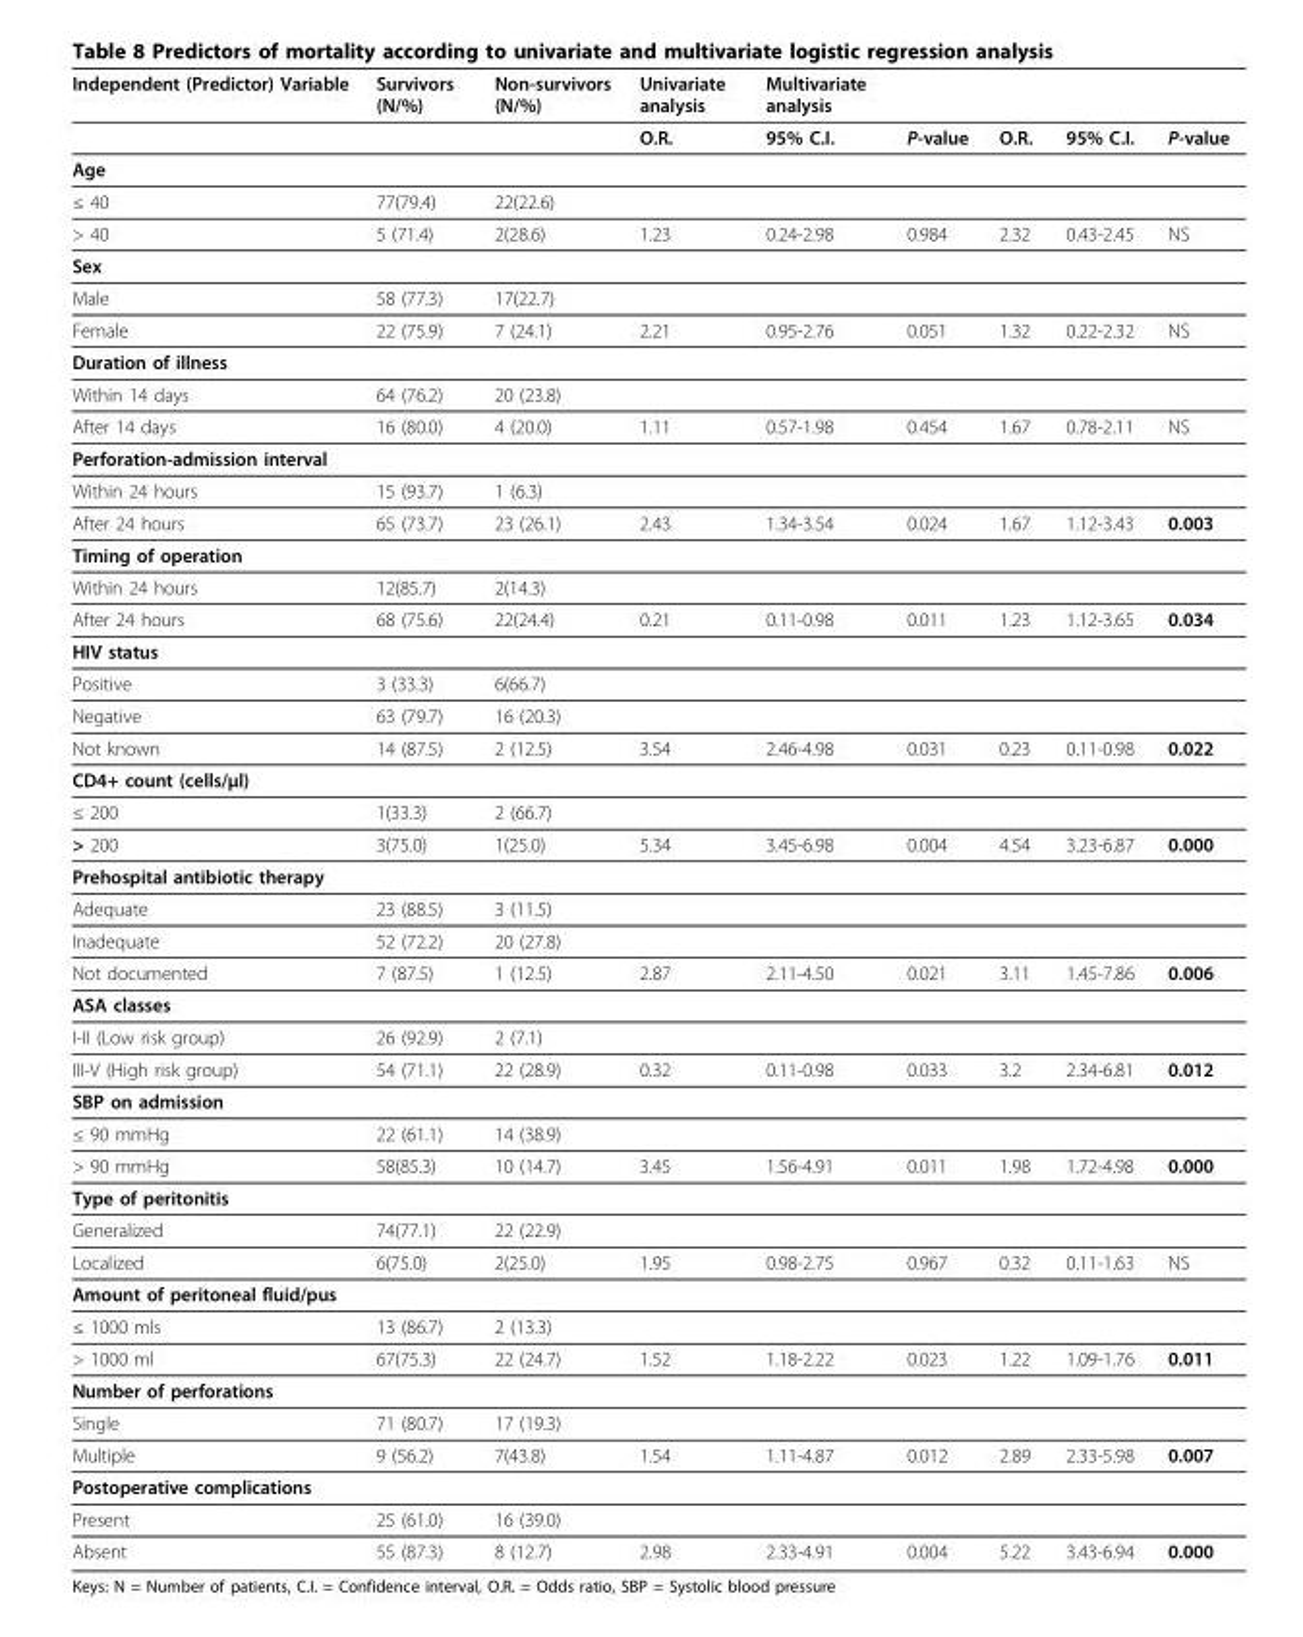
<table><thead><tr><td>Independent (Predictor) Variable</td><td>Survivors (N/%)</td><td>Non-survivors (N/%)</td><td>Univariate analysis</td><td>Multivariate analysis</td><td></td><td></td><td></td><td></td></tr></thead><tbody><tr><td></td><td></td><td></td><td>O.R.</td><td>95% C.I.</td><td>P-value</td><td>O.R.</td><td>95% C.I.</td><td>P-value</td></tr><tr><td colspan="9">Age</td></tr><tr><td>≤ 40</td><td>77(79.4)</td><td>22(22.6)</td><td></td><td></td><td></td><td></td><td></td><td></td></tr><tr><td>&gt; 40</td><td>5 (71.4)</td><td>2(28.6)</td><td>1.23</td><td>0.24-2.98</td><td>0.984</td><td>2.32</td><td>0.43-2.45</td><td>NS</td></tr><tr><td colspan="9">Sex</td></tr><tr><td>Male</td><td>58 (77.3)</td><td>17(22.7)</td><td></td><td></td><td></td><td></td><td></td><td></td></tr><tr><td>Female</td><td>22 (75.9)</td><td>7 (24.1)</td><td>2.21</td><td>0.95-2.76</td><td>0.051</td><td>1.32</td><td>0.22-2.32</td><td>NS</td></tr><tr><td colspan="9">Duration of illness</td></tr><tr><td>Within 14 days</td><td>64 (76.2)</td><td>20 (23.8)</td><td></td><td></td><td></td><td></td><td></td><td></td></tr><tr><td>After 14 days</td><td>16 (80.0)</td><td>4 (20.0)</td><td>1.11</td><td>0.57-1.98</td><td>0.454</td><td>1.67</td><td>0.78-2.11</td><td>NS</td></tr><tr><td colspan="9">Perforation-admission interval</td></tr><tr><td>Within 24 hours</td><td>15 (93.7)</td><td>1 (6.3)</td><td></td><td></td><td></td><td></td><td></td><td></td></tr><tr><td>After 24 hours</td><td>65 (73.7)</td><td>23 (26.1)</td><td>2.43</td><td>1.34-3.54</td><td>0.024</td><td>1.67</td><td>1.12-3.43</td><td>0.003</td></tr><tr><td colspan="9">Timing of operation</td></tr><tr><td>Within 24 hours</td><td>12(85.7)</td><td>2(14.3)</td><td></td><td></td><td></td><td></td><td></td><td></td></tr><tr><td>After 24 hours</td><td>68 (75.6)</td><td>22(24.4)</td><td>0.21</td><td>0.11-0.98</td><td>0.011</td><td>1.23</td><td>1.12-3.65</td><td>0.034</td></tr><tr><td colspan="9">HIV status</td></tr><tr><td>Positive</td><td>3 (33.3)</td><td>6(66.7)</td><td></td><td></td><td></td><td></td><td></td><td></td></tr><tr><td>Negative</td><td>63 (79.7)</td><td>16 (20.3)</td><td></td><td></td><td></td><td></td><td></td><td></td></tr><tr><td>Not known</td><td>14 (87.5)</td><td>2 (12.5)</td><td>3.54</td><td>2.46-4.98</td><td>0.031</td><td>0.23</td><td>0.11-0.98</td><td>0.022</td></tr><tr><td colspan="9">CD4+ count (cells/μl)</td></tr><tr><td>≤ 200</td><td>1(33.3)</td><td>2 (66.7)</td><td></td><td></td><td></td><td></td><td></td><td></td></tr><tr><td>&gt; 200</td><td>3(75.0)</td><td>1(25.0)</td><td>5.34</td><td>3.45-6.98</td><td>0.004</td><td>4.54</td><td>3.23-6.87</td><td>0.000</td></tr><tr><td colspan="9">Prehospital antibiotic therapy</td></tr><tr><td>Adequate</td><td>23 (88.5)</td><td>3 (11.5)</td><td></td><td></td><td></td><td></td><td></td><td></td></tr><tr><td>Inadequate</td><td>52 (72.2)</td><td>20 (27.8)</td><td></td><td></td><td></td><td></td><td></td><td></td></tr><tr><td>Not documented</td><td>7 (87.5)</td><td>1 (12.5)</td><td>2.87</td><td>2.11-4.50</td><td>0.021</td><td>3.11</td><td>1.45-7.86</td><td>0.006</td></tr><tr><td colspan="9">ASA classes</td></tr><tr><td>I-II (Low risk group)</td><td>26 (92.9)</td><td>2 (7.1)</td><td></td><td></td><td></td><td></td><td></td><td></td></tr><tr><td>III-V (High risk group)</td><td>54 (71.1)</td><td>22 (28.9)</td><td>0.32</td><td>0.11-0.98</td><td>0.033</td><td>3.2</td><td>2.34-6.81</td><td>0.012</td></tr><tr><td colspan="9">SBP on admission</td></tr><tr><td>≤ 90 mmHg</td><td>22 (61.1)</td><td>14 (38.9)</td><td></td><td></td><td></td><td></td><td></td><td></td></tr><tr><td>&gt; 90 mmHg</td><td>58(85.3)</td><td>10 (14.7)</td><td>3.45</td><td>1.56-4.91</td><td>0.011</td><td>1.98</td><td>1.72-4.98</td><td>0.000</td></tr><tr><td colspan="9">Type of peritonitis</td></tr><tr><td>Generalized</td><td>74(77.1)</td><td>22 (22.9)</td><td></td><td></td><td></td><td></td><td></td><td></td></tr><tr><td>Localized</td><td>6(75.0)</td><td>2(25.0)</td><td>1.95</td><td>0.98-2.75</td><td>0.967</td><td>0.32</td><td>0.11-1.63</td><td>NS</td></tr><tr><td colspan="9">Amount of peritoneal fluid/pus</td></tr><tr><td>≤ 1000 mls</td><td>13 (86.7)</td><td>2 (13.3)</td><td></td><td></td><td></td><td></td><td></td><td></td></tr><tr><td>&gt; 1000 ml</td><td>67(75.3)</td><td>22 (24.7)</td><td>1.52</td><td>1.18-2.22</td><td>0.023</td><td>1.22</td><td>1.09-1.76</td><td>0.011</td></tr><tr><td colspan="9">Number of perforations</td></tr><tr><td>Single</td><td>71 (80.7)</td><td>17 (19.3)</td><td></td><td></td><td></td><td></td><td></td><td></td></tr><tr><td>Multiple</td><td>9 (56.2)</td><td>7(43.8)</td><td>1.54</td><td>1.11-4.87</td><td>0.012</td><td>2.89</td><td>2.33-5.98</td><td>0.007</td></tr><tr><td colspan="9">Postoperative complications</td></tr><tr><td>Present</td><td>25 (61.0)</td><td>16 (39.0)</td><td></td><td></td><td></td><td></td><td></td><td></td></tr><tr><td>Absent</td><td>55 (87.3)</td><td>8 (12.7)</td><td>2.98</td><td>2.33-4.91</td><td>0.004</td><td>5.22</td><td>3.43-6.94</td><td>0.000</td></tr></tbody></table>